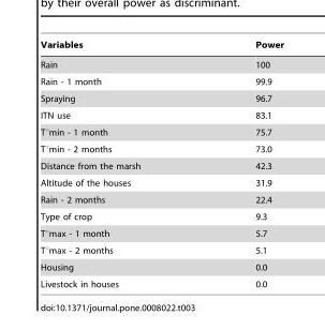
<table><thead><tr><td>Variables</td><td>Power</td></tr></thead><tbody><tr><td>Rain</td><td>100</td></tr><tr><td>Rain - 1 month</td><td>99.9</td></tr><tr><td>Spraying</td><td>96.7</td></tr><tr><td>ITN use</td><td>83.1</td></tr><tr><td>T°min - 1 month</td><td>75.7</td></tr><tr><td>T°min - 2 months</td><td>73.0</td></tr><tr><td>Distance from the marsh</td><td>42.3</td></tr><tr><td>Altitude of the houses</td><td>31.9</td></tr><tr><td>Rain - 2 months</td><td>22.4</td></tr><tr><td>Type of crop</td><td>9.3</td></tr><tr><td>T°max - 1 month</td><td>5.7</td></tr><tr><td>T°max - 2 months</td><td>5.1</td></tr><tr><td>Housing</td><td>0.0</td></tr><tr><td>Livestock in houses</td><td>0.0</td></tr></tbody></table>